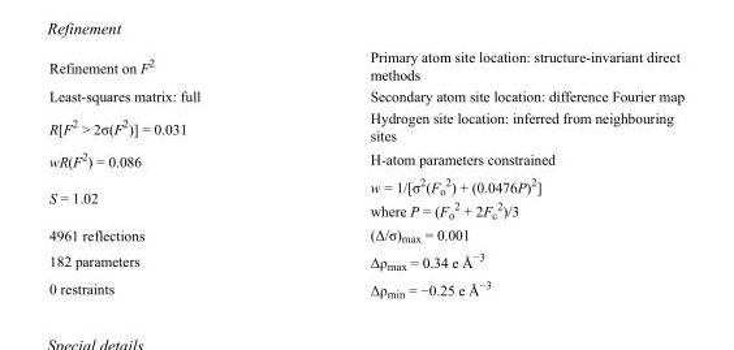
<table><tbody><tr><td>Refinement on F<sup>2</sup></td><td>Primary atom site location: structure-invariant direct methods</td></tr><tr><td>Least-squares matrix: full</td><td>Secondary atom site location: difference Fourier map</td></tr><tr><td>R[F<sup>2</sup> &gt; 2σ(F<sup>2</sup>)] = 0.031</td><td>Hydrogen site location: inferred from neighbouring sites</td></tr><tr><td>wR(F<sup>2</sup>) = 0.086</td><td>H-atom parameters constrained</td></tr><tr><td>S = 1.02</td><td>w = 1/[σ<sup>2</sup>(F<sub>o</sub> <sup>2</sup>) + (0.0476P)<sup>2</sup>] where P = (F<sub>o</sub> <sup>2</sup> + 2F<sub>c</sub> <sup>2</sup>)/3</td></tr><tr><td>4961 reflections</td><td>(Δ/σ)<sub>max</sub> = 0.001</td></tr><tr><td>182 parameters</td><td>Δρ<sub>max</sub> = 0.34 e Å<sup>−3</sup></td></tr><tr><td>0 restraints</td><td>Δρ<sub>min</sub> = −0.25 e Å<sup>−3</sup></td></tr></tbody></table>